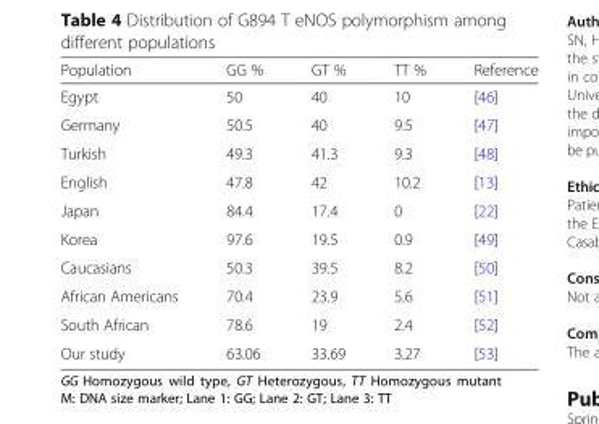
<table><thead><tr><td>Population</td><td>GG %</td><td>GT %</td><td>TT %</td><td>Reference</td></tr></thead><tbody><tr><td>Egypt</td><td>50</td><td>40</td><td>10</td><td>[46]</td></tr><tr><td>Germany</td><td>50.5</td><td>40</td><td>9.5</td><td>[47]</td></tr><tr><td>Turkish</td><td>49.3</td><td>41.3</td><td>9.3</td><td>[48]</td></tr><tr><td>English</td><td>47.8</td><td>42</td><td>10.2</td><td>[13]</td></tr><tr><td>Japan</td><td>84.4</td><td>17.4</td><td>0</td><td>[22]</td></tr><tr><td>Korea</td><td>97.6</td><td>19.5</td><td>0.9</td><td>[49]</td></tr><tr><td>Caucasians</td><td>50.3</td><td>39.5</td><td>8.2</td><td>[50]</td></tr><tr><td>African Americans</td><td>70.4</td><td>23.9</td><td>5.6</td><td>[51]</td></tr><tr><td>South African</td><td>78.6</td><td>19</td><td>2.4</td><td>[52]</td></tr><tr><td>Our study</td><td>63.06</td><td>33.69</td><td>3.27</td><td>[53]</td></tr></tbody></table>